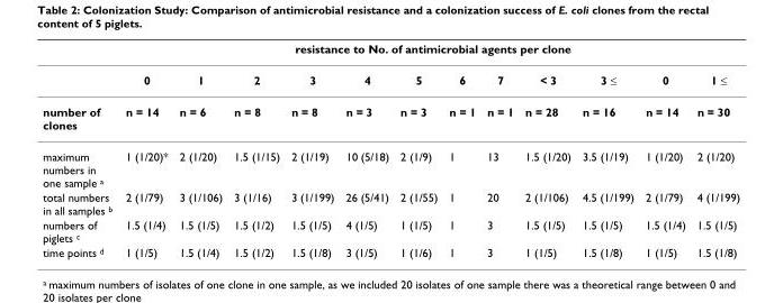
<table><thead><tr><td rowspan="2"></td><td colspan="12">resistance to No. of antimicrobial agents per clone</td></tr><tr><td>0</td><td>1</td><td>2</td><td>3</td><td>4</td><td>5</td><td>6</td><td>7</td><td>&lt; 3</td><td>3 ≤</td><td>0</td><td>1 ≤</td></tr></thead><tbody><tr><td>number of clones</td><td>n = 14</td><td>n = 6</td><td>n = 8</td><td>n = 8</td><td>n = 3</td><td>n = 3</td><td>n = 1</td><td>n = 1</td><td>n = 28</td><td>n = 16</td><td>n = 14</td><td>n = 30</td></tr><tr><td>maximum numbers in one sample <sup>a</sup></td><td>1 (1/20)*</td><td>2 (1/20)</td><td>1.5 (1/15)</td><td>2 (1/19)</td><td>10 (5/18)</td><td>2 (1/9)</td><td>1</td><td>13</td><td>1.5 (1/20)</td><td>3.5 (1/19)</td><td>1 (1/20)</td><td>2 (1/20)</td></tr><tr><td>total numbers in all samples <sup>b</sup></td><td>2 (1/79)</td><td>3 (1/106)</td><td>3 (1/16)</td><td>3 (1/199)</td><td>26 (5/41)</td><td>2 (1/55)</td><td>1</td><td>20</td><td>2 (1/106)</td><td>4.5 (1/199)</td><td>2 (1/79)</td><td>4 (1/199)</td></tr><tr><td>numbers of piglets <sup>c</sup></td><td>1.5 (1/4)</td><td>1.5 (1/5)</td><td>1.5 (1/2)</td><td>1.5 (1/5)</td><td>4 (1/5)</td><td>1 (1/5)</td><td>1</td><td>3</td><td>1.5 (1/5)</td><td>1.5 (1/5)</td><td>1.5 (1/4)</td><td>1.5 (1/5)</td></tr><tr><td>time points <sup>d</sup></td><td>1 (1/5)</td><td>1.5 (1/4)</td><td>1.5 (1/2)</td><td>1.5 (1/8)</td><td>3 (1/5)</td><td>1 (1/6)</td><td>1</td><td>3</td><td>1 (1/5)</td><td>1.5 (1/8)</td><td>1 (1/5)</td><td>1.5 (1/8)</td></tr></tbody></table>